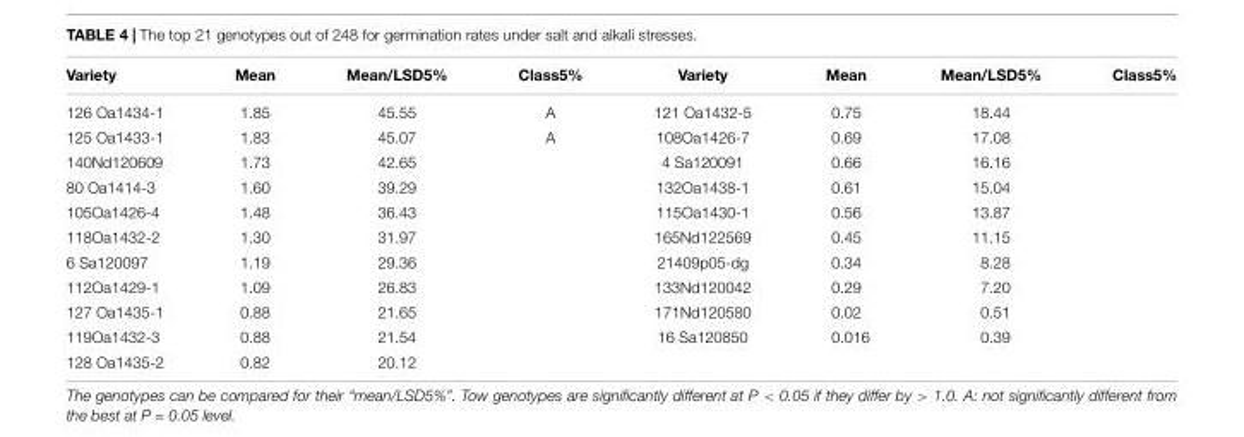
<table><thead><tr><td>Variety</td><td>Mean</td><td>Mean/LSD5%</td><td>Class5%</td><td>Variety</td><td>Mean</td><td>Mean/LSD5%</td><td>Class5%</td></tr></thead><tbody><tr><td>126 Oa1434-1</td><td>1.85</td><td>45.55</td><td>A</td><td>121 Oa1432-5</td><td>0.75</td><td>18.44</td><td></td></tr><tr><td>125 Oa1433-1</td><td>1.83</td><td>45.07</td><td>A</td><td>108Oa1426-7</td><td>0.69</td><td>17.08</td><td></td></tr><tr><td>140Nd120609</td><td>1.73</td><td>42.65</td><td></td><td>4 Sa120091</td><td>0.66</td><td>16.16</td><td></td></tr><tr><td>80 Oa1414-3</td><td>1.60</td><td>39.29</td><td></td><td>132Oa1438-1</td><td>0.61</td><td>15.04</td><td></td></tr><tr><td>105Oa1426-4</td><td>1.48</td><td>36.43</td><td></td><td>115Oa1430-1</td><td>0.56</td><td>13.87</td><td></td></tr><tr><td>118Oa1432-2</td><td>1.30</td><td>31.97</td><td></td><td>165Nd122569</td><td>0.45</td><td>11.15</td><td></td></tr><tr><td>6 Sa120097</td><td>1.19</td><td>29.36</td><td></td><td>21409p05-dg</td><td>0.34</td><td>8.28</td><td></td></tr><tr><td>112Oa1429-1</td><td>1.09</td><td>26.83</td><td></td><td>133Nd120042</td><td>0.29</td><td>7.20</td><td></td></tr><tr><td>127 Oa1435-1</td><td>0.88</td><td>21.65</td><td></td><td>171Nd120580</td><td>0.02</td><td>0.51</td><td></td></tr><tr><td>119Oa1432-3</td><td>0.88</td><td>21.54</td><td></td><td>16 Sa120850</td><td>0.016</td><td>0.39</td><td></td></tr><tr><td>128 Oa1435-2</td><td>0.82</td><td>20.12</td><td></td><td></td><td></td><td></td><td></td></tr></tbody></table>